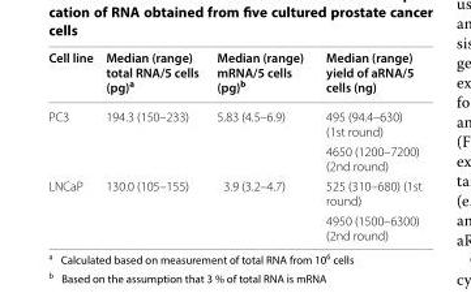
<table><thead><tr><td>Cell line</td><td>Median (range) total RNA/5 cells (pg)<sup>a</sup></td><td>Median (range) mRNA/5 cells (pg)<sup>b</sup></td><td>Median (range) yield of aRNA/5 cells (ng)</td></tr></thead><tbody><tr><td rowspan="2">PC3</td><td rowspan="2">194.3 (150–233)</td><td rowspan="2">5.83 (4.5–6.9)</td><td>495 (94.4–630) (1st round)</td></tr><tr><td>4650 (1200–7200) (2nd round)</td></tr><tr><td rowspan="2">LNCaP</td><td rowspan="2">130.0 (105–155)</td><td rowspan="2">3.9 (3.2–4.7)</td><td>525 (310–680) (1st round)</td></tr><tr><td>4950 (1500–6300) (2nd round)</td></tr></tbody></table>